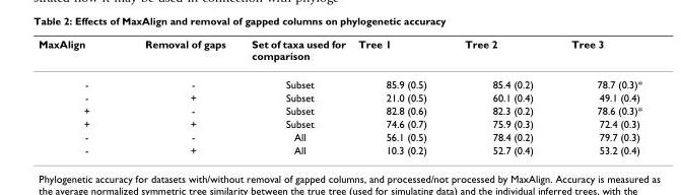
<table><thead><tr><td>MaxAlign</td><td>Removal of gaps</td><td>Set of taxa used for comparison</td><td>Tree 1</td><td>Tree 2</td><td>Tree 3</td></tr></thead><tbody><tr><td>-</td><td>-</td><td>Subset</td><td>85.9 (0.5)</td><td>85.4 (0.2)</td><td>78.7 (0.3)*</td></tr><tr><td>-</td><td>+</td><td>Subset</td><td>21.0 (0.5)</td><td>60.1 (0.4)</td><td>49.1 (0.4)</td></tr><tr><td>+</td><td>-</td><td>Subset</td><td>82.8 (0.6)</td><td>82.3 (0.2)</td><td>78.6 (0.3)*</td></tr><tr><td>+</td><td>+</td><td>Subset</td><td>74.6 (0.7)</td><td>75.9 (0.3)</td><td>72.4 (0.3)</td></tr><tr><td>-</td><td>-</td><td>All</td><td>56.1 (0.5)</td><td>78.4 (0.2)</td><td>79.7 (0.3)</td></tr><tr><td>-</td><td>+</td><td>All</td><td>10.3 (0.2)</td><td>52.7 (0.4)</td><td>53.2 (0.4)</td></tr></tbody></table>